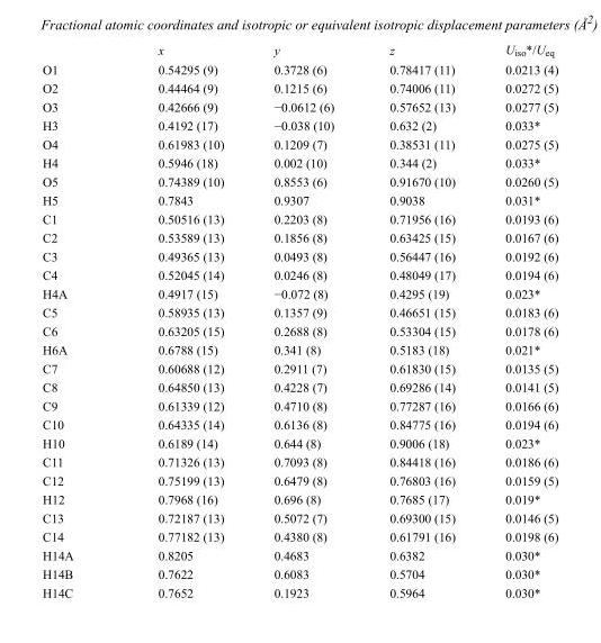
<table><thead><tr><td></td><td>x</td><td>y</td><td>z</td><td>U<sub>iso</sub>*/U<sub>eq</sub></td></tr></thead><tbody><tr><td>O1</td><td>0.54295 (9)</td><td>0.3728 (6)</td><td>0.78417 (11)</td><td>0.0213 (4)</td></tr><tr><td>O2</td><td>0.44464 (9)</td><td>0.1215 (6)</td><td>0.74006 (11)</td><td>0.0272 (5)</td></tr><tr><td>O3</td><td>0.42666 (9)</td><td>−0.0612 (6)</td><td>0.57652 (13)</td><td>0.0277 (5)</td></tr><tr><td>H3</td><td>0.4192 (17)</td><td>−0.038 (10)</td><td>0.632 (2)</td><td>0.033*</td></tr><tr><td>O4</td><td>0.61983 (10)</td><td>0.1209 (7)</td><td>0.38531 (11)</td><td>0.0275 (5)</td></tr><tr><td>H4</td><td>0.5946 (18)</td><td>0.002 (10)</td><td>0.344 (2)</td><td>0.033*</td></tr><tr><td>O5</td><td>0.74389 (10)</td><td>0.8553 (6)</td><td>0.91670 (10)</td><td>0.0260 (5)</td></tr><tr><td>H5</td><td>0.7843</td><td>0.9307</td><td>0.9038</td><td>0.031*</td></tr><tr><td>C1</td><td>0.50516 (13)</td><td>0.2203 (8)</td><td>0.71956 (16)</td><td>0.0193 (6)</td></tr><tr><td>C2</td><td>0.53589 (13)</td><td>0.1856 (8)</td><td>0.63425 (15)</td><td>0.0167 (6)</td></tr><tr><td>C3</td><td>0.49365 (13)</td><td>0.0493 (8)</td><td>0.56447 (16)</td><td>0.0192 (6)</td></tr><tr><td>C4</td><td>0.52045 (14)</td><td>0.0246 (8)</td><td>0.48049 (17)</td><td>0.0194 (6)</td></tr><tr><td>H4A</td><td>0.4917 (15)</td><td>−0.072 (8)</td><td>0.4295 (19)</td><td>0.023*</td></tr><tr><td>C5</td><td>0.58935 (13)</td><td>0.1357 (9)</td><td>0.46651 (15)</td><td>0.0183 (6)</td></tr><tr><td>C6</td><td>0.63205 (15)</td><td>0.2688 (8)</td><td>0.53304 (15)</td><td>0.0178 (6)</td></tr><tr><td>H6A</td><td>0.6788 (15)</td><td>0.341 (8)</td><td>0.5183 (18)</td><td>0.021*</td></tr><tr><td>C7</td><td>0.60688 (12)</td><td>0.2911 (7)</td><td>0.61830 (15)</td><td>0.0135 (5)</td></tr><tr><td>C8</td><td>0.64850 (13)</td><td>0.4228 (7)</td><td>0.69286 (14)</td><td>0.0141 (5)</td></tr><tr><td>C9</td><td>0.61339 (12)</td><td>0.4710 (8)</td><td>0.77287 (16)</td><td>0.0166 (6)</td></tr><tr><td>C10</td><td>0.64335 (14)</td><td>0.6136 (8)</td><td>0.84775 (16)</td><td>0.0194 (6)</td></tr><tr><td>H10</td><td>0.6189 (14)</td><td>0.644 (8)</td><td>0.9006 (18)</td><td>0.023*</td></tr><tr><td>C11</td><td>0.71326 (13)</td><td>0.7093 (8)</td><td>0.84418 (16)</td><td>0.0186 (6)</td></tr><tr><td>C12</td><td>0.75199 (13)</td><td>0.6479 (8)</td><td>0.76803 (16)</td><td>0.0159 (5)</td></tr><tr><td>H12</td><td>0.7968 (16)</td><td>0.696 (8)</td><td>0.7685 (17)</td><td>0.019*</td></tr><tr><td>C13</td><td>0.72187 (13)</td><td>0.5072 (7)</td><td>0.69300 (15)</td><td>0.0146 (5)</td></tr><tr><td>C14</td><td>0.77182 (13)</td><td>0.4380 (8)</td><td>0.61791 (16)</td><td>0.0198 (6)</td></tr><tr><td>H14A</td><td>0.8205</td><td>0.4683</td><td>0.6382</td><td>0.030*</td></tr><tr><td>H14B</td><td>0.7622</td><td>0.6083</td><td>0.5704</td><td>0.030*</td></tr><tr><td>H14C</td><td>0.7652</td><td>0.1923</td><td>0.5964</td><td>0.030*</td></tr></tbody></table>